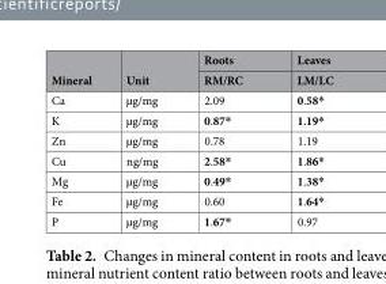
<table><thead><tr><td rowspan="2">Mineral</td><td rowspan="2">Unit</td><td rowspan="2">Roots RM/RC</td><td rowspan="2">Leaves LM/LC</td></tr><tr></tr></thead><tbody><tr><td>Ca</td><td>µg/mg</td><td>2.09</td><td>0.58*</td></tr><tr><td>K</td><td>µg/mg</td><td>0.87*</td><td>1.19*</td></tr><tr><td>Zn</td><td>µg/mg</td><td>0.78</td><td>1.19</td></tr><tr><td>Cu</td><td>ng/mg</td><td>2.58*</td><td>1.86*</td></tr><tr><td>Mg</td><td>µg/mg</td><td>0.49*</td><td>1.38*</td></tr><tr><td>Fe</td><td>µg/mg</td><td>0.60</td><td>1.64*</td></tr><tr><td>P</td><td>µg/mg</td><td>1.67*</td><td>0.97</td></tr></tbody></table>